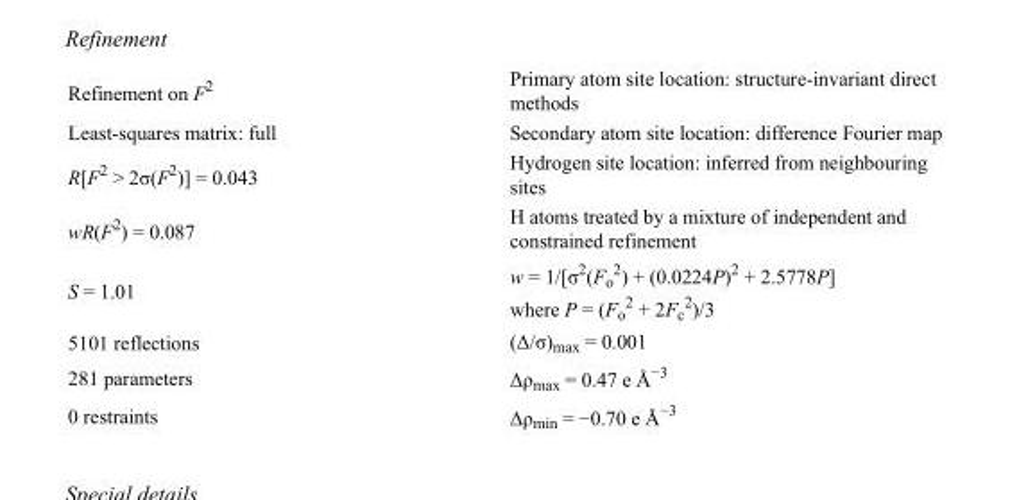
<table><tbody><tr><td>Refinement on F<sup>2</sup></td><td>Primary atom site location: structure-invariant direct methods</td></tr><tr><td>Least-squares matrix: full</td><td>Secondary atom site location: difference Fourier map</td></tr><tr><td>R[F<sup>2</sup> &gt; 2σ(F<sup>2</sup>)] = 0.043</td><td>Hydrogen site location: inferred from neighbouring sites</td></tr><tr><td>wR(F<sup>2</sup>) = 0.087</td><td>H atoms treated by a mixture of independent and constrained refinement</td></tr><tr><td>S = 1.01</td><td>w = 1/[σ<sup>2</sup>(F<sub>o</sub> <sup>2</sup>) + (0.0224P)<sup>2</sup> + 2.5778P] where P = (F<sub>o</sub> <sup>2</sup> + 2F<sub>c</sub> <sup>2</sup>)/3</td></tr><tr><td>5101 reflections</td><td>(Δ/σ)<sub>max</sub> = 0.001</td></tr><tr><td>281 parameters</td><td>Δρ<sub>max</sub> = 0.47 e Å<sup>−3</sup></td></tr><tr><td>0 restraints</td><td>Δρ<sub>min</sub> = −0.70 e Å<sup>−3</sup></td></tr></tbody></table>